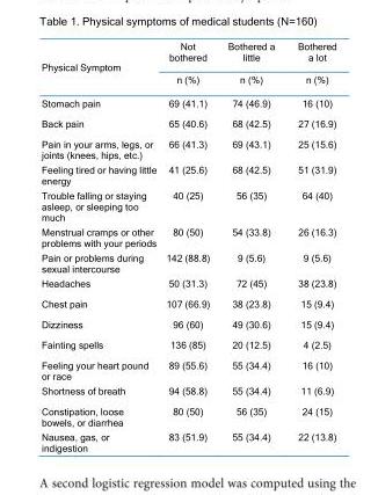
<table><thead><tr><td rowspan="2">Physical Symptom</td><td rowspan="2">Not bothered n (%)</td><td rowspan="2">Bothered a little n (%)</td><td rowspan="2">Bothered a lot n (%)</td></tr><tr></tr></thead><tbody><tr><td>Stomach pain</td><td>69 (41.1)</td><td>74 (46.9)</td><td>16 (10)</td></tr><tr><td>Back pain</td><td>65 (40.6)</td><td>68 (42.5)</td><td>27 (16.9)</td></tr><tr><td>Pain in your arms, legs, or joints (knees, hips, etc.)</td><td>66 (41.3)</td><td>69 (43.1)</td><td>25 (15.6)</td></tr><tr><td>Feeling tired or having little energy</td><td>41 (25.6)</td><td>68 (42.5)</td><td>51 (31.9)</td></tr><tr><td>Trouble falling or staying asleep, or sleeping too much</td><td>40 (25)</td><td>56 (35)</td><td>64 (40)</td></tr><tr><td>Menstrual cramps or other problems with your periods</td><td>80 (50)</td><td>54 (33.8)</td><td>26 (16.3)</td></tr><tr><td>Pain or problems during sexual intercourse</td><td>142 (88.8)</td><td>9 (5.6)</td><td>9 (5.6)</td></tr><tr><td>Headaches</td><td>50 (31.3)</td><td>72 (45)</td><td>38 (23.8)</td></tr><tr><td>Chest pain</td><td>107 (66.9)</td><td>38 (23.8)</td><td>15 (9.4)</td></tr><tr><td>Dizziness</td><td>96 (60)</td><td>49 (30.6)</td><td>15 (9.4)</td></tr><tr><td>Fainting spells</td><td>136 (85)</td><td>20 (12.5)</td><td>4 (2.5)</td></tr><tr><td>Feeling your heart pound or race</td><td>89 (55.6)</td><td>55 (34.4)</td><td>16 (10)</td></tr><tr><td>Shortness of breath</td><td>94 (58.8)</td><td>55 (34.4)</td><td>11 (6.9)</td></tr><tr><td>Constipation, loose bowels, or diarrhea</td><td>80 (50)</td><td>56 (35)</td><td>24 (15)</td></tr><tr><td>Nausea, gas, or indigestion</td><td>83 (51.9)</td><td>55 (34.4)</td><td>22 (13.8)</td></tr></tbody></table>